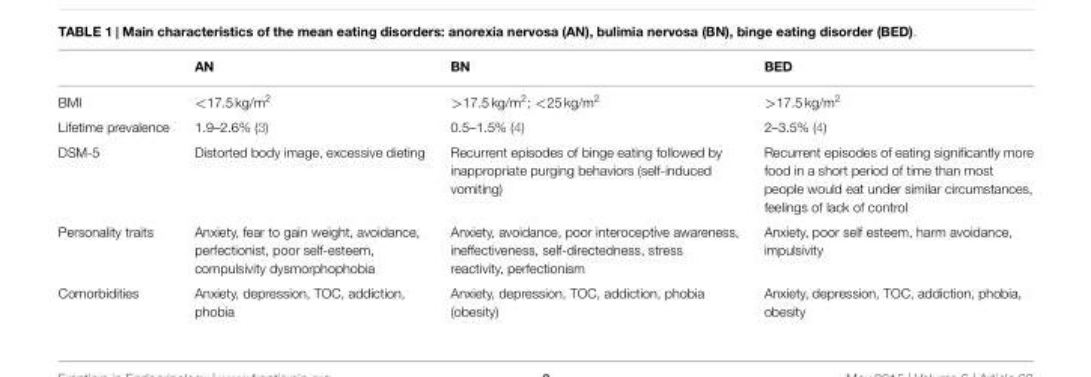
<table><thead><tr><td></td><td>AN</td><td>BN</td><td>BED</td></tr></thead><tbody><tr><td>BMI</td><td>&lt;17.5 kg/m<sup>2</sup></td><td>&gt;17.5 kg/m<sup>2</sup>; &lt;25 kg/m<sup>2</sup></td><td>&gt;17.5 kg/m<sup>2</sup></td></tr><tr><td>Lifetime prevalence</td><td>1.9–2.6% (3)</td><td>0.5–1.5% (4)</td><td>2–3.5% (4)</td></tr><tr><td>DSM-5</td><td>Distorted body image, excessive dieting</td><td>Recurrent episodes of binge eating followed by inappropriate purging behaviors (self-induced vomiting)</td><td>Recurrent episodes of eating significantly more food in a short period of time than most people would eat under similar circumstances, feelings of lack of control</td></tr><tr><td>Personality traits</td><td>Anxiety, fear to gain weight, avoidance, perfectionist, poor self-esteem, compulsivity dysmorphophobia</td><td>Anxiety, avoidance, poor interoceptive awareness, ineffectiveness, self-directedness, stress reactivity, perfectionism</td><td>Anxiety, poor self esteem, harm avoidance, impulsivity</td></tr><tr><td>Comorbidities</td><td>Anxiety, depression, TOC, addiction, phobia</td><td>Anxiety, depression, TOC, addiction, phobia (obesity)</td><td>Anxiety, depression, TOC, addiction, phobia, obesity</td></tr></tbody></table>